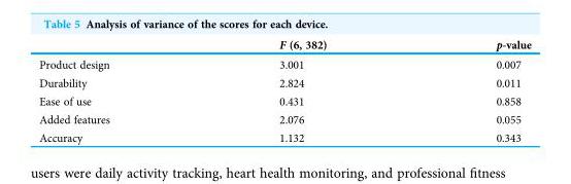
<table><thead><tr><td></td><td>F (6, 382)</td><td>p-value</td></tr></thead><tbody><tr><td>Product design</td><td>3.001</td><td>0.007</td></tr><tr><td>Durability</td><td>2.824</td><td>0.011</td></tr><tr><td>Ease of use</td><td>0.431</td><td>0.858</td></tr><tr><td>Added features</td><td>2.076</td><td>0.055</td></tr><tr><td>Accuracy</td><td>1.132</td><td>0.343</td></tr></tbody></table>